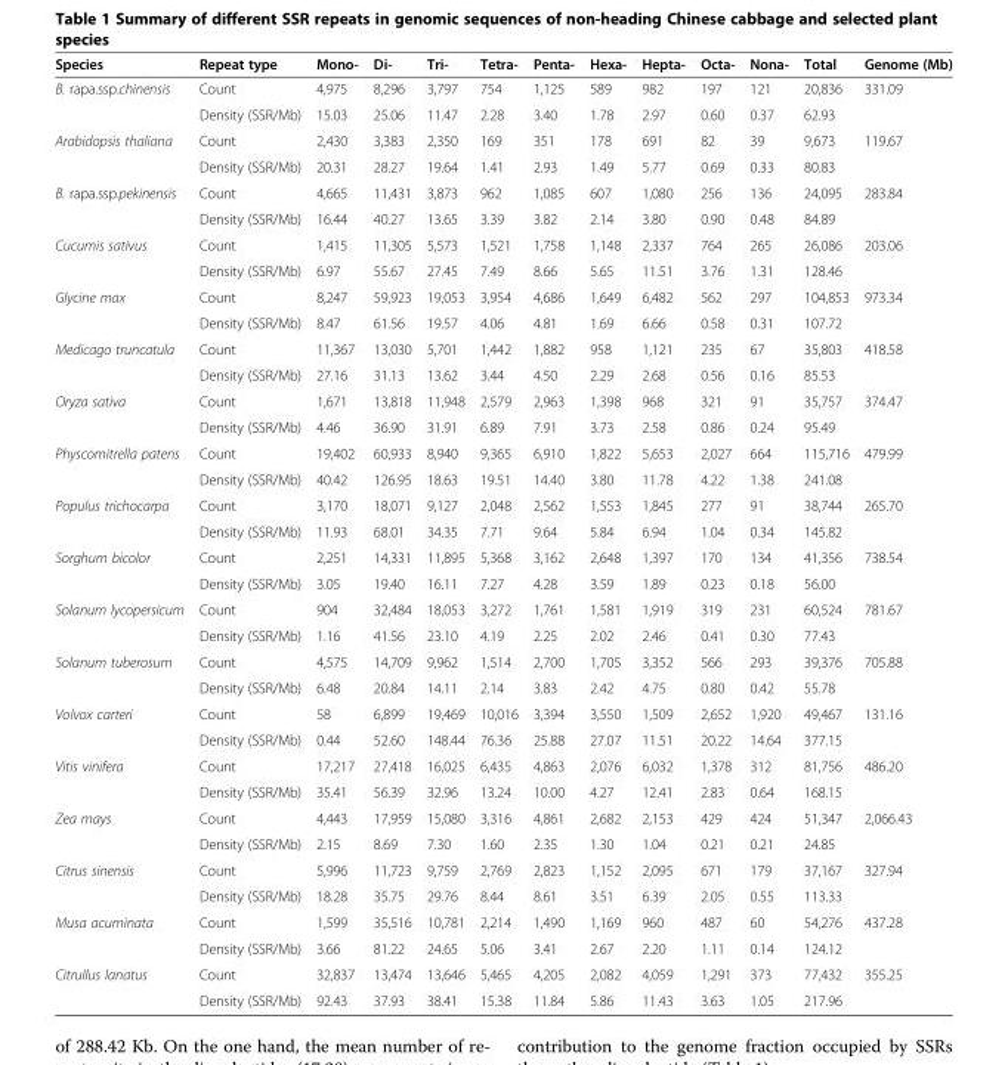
<table><thead><tr><td>Species</td><td>Repeat type</td><td>Mono-</td><td>Di-</td><td>Tri-</td><td>Tetra-</td><td>Penta-</td><td>Hexa-</td><td>Hepta-</td><td>Octa-</td><td>Nona-</td><td>Total</td><td>Genome (Mb)</td></tr></thead><tbody><tr><td rowspan="2">B. rapa.ssp.chinensis</td><td>Count</td><td>4,975</td><td>8,296</td><td>3,797</td><td>754</td><td>1,125</td><td>589</td><td>982</td><td>197</td><td>121</td><td>20,836</td><td rowspan="2">331.09</td></tr><tr><td>Density (SSR/Mb)</td><td>15.03</td><td>25.06</td><td>11.47</td><td>2.28</td><td>3.40</td><td>1.78</td><td>2.97</td><td>0.60</td><td>0.37</td><td>62.93</td></tr><tr><td rowspan="2">Arabidopsis thaliana</td><td>Count</td><td>2,430</td><td>3,383</td><td>2,350</td><td>169</td><td>351</td><td>178</td><td>691</td><td>82</td><td>39</td><td>9,673</td><td rowspan="2">119.67</td></tr><tr><td>Density (SSR/Mb)</td><td>20.31</td><td>28.27</td><td>19.64</td><td>1.41</td><td>2.93</td><td>1.49</td><td>5.77</td><td>0.69</td><td>0.33</td><td>80.83</td></tr><tr><td rowspan="2">B. rapa.ssp.pekinensis</td><td>Count</td><td>4,665</td><td>11,431</td><td>3,873</td><td>962</td><td>1,085</td><td>607</td><td>1,080</td><td>256</td><td>136</td><td>24,095</td><td rowspan="2">283.84</td></tr><tr><td>Density (SSR/Mb)</td><td>16.44</td><td>40.27</td><td>13.65</td><td>3.39</td><td>3.82</td><td>2.14</td><td>3.80</td><td>0.90</td><td>0.48</td><td>84.89</td></tr><tr><td rowspan="2">Cucumis sativus</td><td>Count</td><td>1,415</td><td>11,305</td><td>5,573</td><td>1,521</td><td>1,758</td><td>1,148</td><td>2,337</td><td>764</td><td>265</td><td>26,086</td><td rowspan="2">203.06</td></tr><tr><td>Density (SSR/Mb)</td><td>6.97</td><td>55.67</td><td>27.45</td><td>7.49</td><td>8.66</td><td>5.65</td><td>11.51</td><td>3.76</td><td>1.31</td><td>128.46</td></tr><tr><td rowspan="2">Glycine max</td><td>Count</td><td>8,247</td><td>59,923</td><td>19,053</td><td>3,954</td><td>4,686</td><td>1,649</td><td>6,482</td><td>562</td><td>297</td><td>104,853</td><td rowspan="2">973.34</td></tr><tr><td>Density (SSR/Mb)</td><td>8.47</td><td>61.56</td><td>19.57</td><td>4.06</td><td>4.81</td><td>1.69</td><td>6.66</td><td>0.58</td><td>0.31</td><td>107.72</td></tr><tr><td rowspan="2">Medicago truncatula</td><td>Count</td><td>11,367</td><td>13,030</td><td>5,701</td><td>1,442</td><td>1,882</td><td>958</td><td>1,121</td><td>235</td><td>67</td><td>35,803</td><td rowspan="2">418.58</td></tr><tr><td>Density (SSR/Mb)</td><td>27.16</td><td>31.13</td><td>13.62</td><td>3.44</td><td>4.50</td><td>2.29</td><td>2.68</td><td>0.56</td><td>0.16</td><td>85.53</td></tr><tr><td rowspan="2">Oryza sativa</td><td>Count</td><td>1,671</td><td>13,818</td><td>11,948</td><td>2,579</td><td>2,963</td><td>1,398</td><td>968</td><td>321</td><td>91</td><td>35,757</td><td rowspan="2">374.47</td></tr><tr><td>Density (SSR/Mb)</td><td>4.46</td><td>36.90</td><td>31.91</td><td>6.89</td><td>7.91</td><td>3.73</td><td>2.58</td><td>0.86</td><td>0.24</td><td>95.49</td></tr><tr><td rowspan="2">Physcomitrella patens</td><td>Count</td><td>19,402</td><td>60,933</td><td>8,940</td><td>9,365</td><td>6,910</td><td>1,822</td><td>5,653</td><td>2,027</td><td>664</td><td>115,716</td><td rowspan="2">479.99</td></tr><tr><td>Density (SSR/Mb)</td><td>40.42</td><td>126.95</td><td>18.63</td><td>19.51</td><td>14.40</td><td>3.80</td><td>11.78</td><td>4.22</td><td>1.38</td><td>241.08</td></tr><tr><td rowspan="2">Populus trichocarpa</td><td>Count</td><td>3,170</td><td>18,071</td><td>9,127</td><td>2,048</td><td>2,562</td><td>1,553</td><td>1,845</td><td>277</td><td>91</td><td>38,744</td><td rowspan="2">265.70</td></tr><tr><td>Density (SSR/Mb)</td><td>11.93</td><td>68.01</td><td>34.35</td><td>7.71</td><td>9.64</td><td>5.84</td><td>6.94</td><td>1.04</td><td>0.34</td><td>145.82</td></tr><tr><td rowspan="2">Sorghum bicolor</td><td>Count</td><td>2,251</td><td>14,331</td><td>11,895</td><td>5,368</td><td>3,162</td><td>2,648</td><td>1,397</td><td>170</td><td>134</td><td>41,356</td><td rowspan="2">738.54</td></tr><tr><td>Density (SSR/Mb)</td><td>3.05</td><td>19.40</td><td>16.11</td><td>7.27</td><td>4.28</td><td>3.59</td><td>1.89</td><td>0.23</td><td>0.18</td><td>56.00</td></tr><tr><td rowspan="2">Solanum lycopersicum</td><td>Count</td><td>904</td><td>32,484</td><td>18,053</td><td>3,272</td><td>1,761</td><td>1,581</td><td>1,919</td><td>319</td><td>231</td><td>60,524</td><td rowspan="2">781.67</td></tr><tr><td>Density (SSR/Mb)</td><td>1.16</td><td>41.56</td><td>23.10</td><td>4.19</td><td>2.25</td><td>2.02</td><td>2.46</td><td>0.41</td><td>0.30</td><td>77.43</td></tr><tr><td rowspan="2">Solanum tuberosum</td><td>Count</td><td>4,575</td><td>14,709</td><td>9,962</td><td>1,514</td><td>2,700</td><td>1,705</td><td>3,352</td><td>566</td><td>293</td><td>39,376</td><td rowspan="2">705.88</td></tr><tr><td>Density (SSR/Mb)</td><td>6.48</td><td>20.84</td><td>14.11</td><td>2.14</td><td>3.83</td><td>2.42</td><td>4.75</td><td>0.80</td><td>0.42</td><td>55.78</td></tr><tr><td rowspan="2">Volvox carteri</td><td>Count</td><td>58</td><td>6,899</td><td>19,469</td><td>10,016</td><td>3,394</td><td>3,550</td><td>1,509</td><td>2,652</td><td>1,920</td><td>49,467</td><td rowspan="2">131.16</td></tr><tr><td>Density (SSR/Mb)</td><td>0.44</td><td>52.60</td><td>148.44</td><td>76.36</td><td>25.88</td><td>27.07</td><td>11.51</td><td>20.22</td><td>14.64</td><td>377.15</td></tr><tr><td rowspan="2">Vitis vinifera</td><td>Count</td><td>17,217</td><td>27,418</td><td>16,025</td><td>6,435</td><td>4,863</td><td>2,076</td><td>6,032</td><td>1,378</td><td>312</td><td>81,756</td><td rowspan="2">486.20</td></tr><tr><td>Density (SSR/Mb)</td><td>35.41</td><td>56.39</td><td>32.96</td><td>13.24</td><td>10.00</td><td>4.27</td><td>12.41</td><td>2.83</td><td>0.64</td><td>168.15</td></tr><tr><td rowspan="2">Zea mays</td><td>Count</td><td>4,443</td><td>17,959</td><td>15,080</td><td>3,316</td><td>4,861</td><td>2,682</td><td>2,153</td><td>429</td><td>424</td><td>51,347</td><td rowspan="2">2,066.43</td></tr><tr><td>Density (SSR/Mb)</td><td>2.15</td><td>8.69</td><td>7.30</td><td>1.60</td><td>2.35</td><td>1.30</td><td>1.04</td><td>0.21</td><td>0.21</td><td>24.85</td></tr><tr><td rowspan="2">Citrus sinensis</td><td>Count</td><td>5,996</td><td>11,723</td><td>9,759</td><td>2,769</td><td>2,823</td><td>1,152</td><td>2,095</td><td>671</td><td>179</td><td>37,167</td><td rowspan="2">327.94</td></tr><tr><td>Density (SSR/Mb)</td><td>18.28</td><td>35.75</td><td>29.76</td><td>8.44</td><td>8.61</td><td>3.51</td><td>6.39</td><td>2.05</td><td>0.55</td><td>113.33</td></tr><tr><td rowspan="2">Musa acuminata</td><td>Count</td><td>1,599</td><td>35,516</td><td>10,781</td><td>2,214</td><td>1,490</td><td>1,169</td><td>960</td><td>487</td><td>60</td><td>54,276</td><td rowspan="2">437.28</td></tr><tr><td>Density (SSR/Mb)</td><td>3.66</td><td>81.22</td><td>24.65</td><td>5.06</td><td>3.41</td><td>2.67</td><td>2.20</td><td>1.11</td><td>0.14</td><td>124.12</td></tr><tr><td rowspan="2">Citrullus lanatus</td><td>Count</td><td>32,837</td><td>13,474</td><td>13,646</td><td>5,465</td><td>4,205</td><td>2,082</td><td>4,059</td><td>1,291</td><td>373</td><td>77,432</td><td rowspan="2">355.25</td></tr><tr><td>Density (SSR/Mb)</td><td>92.43</td><td>37.93</td><td>38.41</td><td>15.38</td><td>11.84</td><td>5.86</td><td>11.43</td><td>3.63</td><td>1.05</td><td>217.96</td></tr></tbody></table>